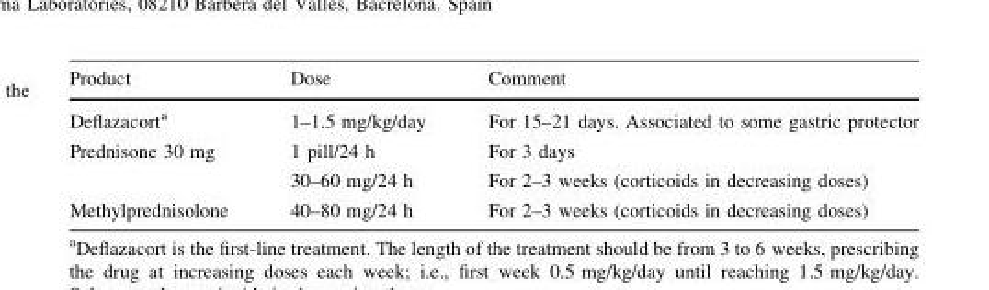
<table><thead><tr><td>Product</td><td>Dose</td><td>Comment</td></tr></thead><tbody><tr><td>Deflazacort<sup>a</sup></td><td>1–1.5 mg/kg/day</td><td>For 15–21 days. Associated to some gastric protector</td></tr><tr><td rowspan="2">Prednisone 30 mg</td><td>1 pill/24 h</td><td>For 3 days</td></tr><tr><td>30–60 mg/24 h</td><td>For 2–3 weeks (corticoids in decreasing doses)</td></tr><tr><td>Methylprednisolone</td><td>40–80 mg/24 h</td><td>For 2–3 weeks (corticoids in decreasing doses)</td></tr></tbody></table>